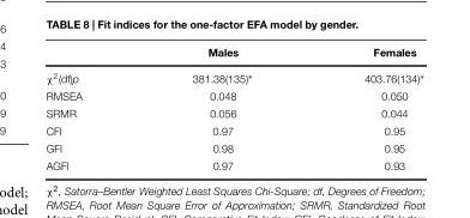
<table><thead><tr><td></td><td>Males</td><td>Females</td></tr></thead><tbody><tr><td>χ<sup>2</sup>(df)p</td><td>381.38(135)∗</td><td>403.76(134)∗</td></tr><tr><td>RMSEA</td><td>0.048</td><td>0.050</td></tr><tr><td>SRMR</td><td>0.056</td><td>0.044</td></tr><tr><td>CFI</td><td>0.97</td><td>0.95</td></tr><tr><td>GFI</td><td>0.98</td><td>0.95</td></tr><tr><td>AGFI</td><td>0.97</td><td>0.93</td></tr></tbody></table>